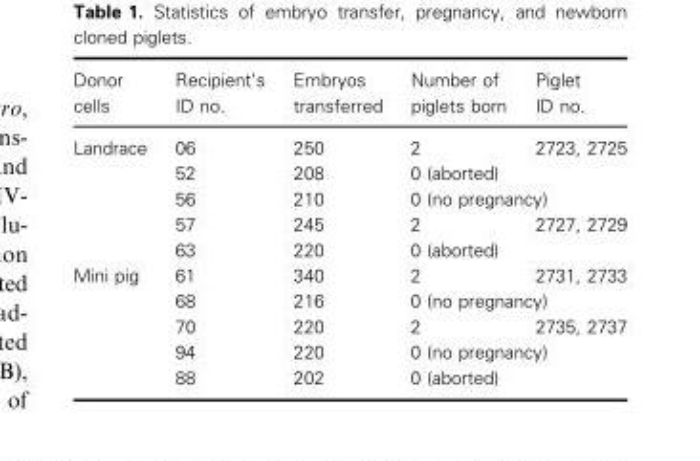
<table><thead><tr><td>Donor cells</td><td>Recipient’s ID no.</td><td>Embryos transferred</td><td>Number of piglets born</td><td>Piglet ID no.</td></tr></thead><tbody><tr><td rowspan="5">Landrace</td><td>06</td><td>250</td><td>2</td><td>2723, 2725</td></tr><tr><td>52</td><td>208</td><td colspan="2">0 (aborted)</td></tr><tr><td>56</td><td>210</td><td colspan="2">0 (no pregnancy)</td></tr><tr><td>57</td><td>245</td><td>2</td><td>2727, 2729</td></tr><tr><td>63</td><td>220</td><td colspan="2">0 (aborted)</td></tr><tr><td rowspan="5">Mini pig</td><td>61</td><td>340</td><td>2</td><td>2731, 2733</td></tr><tr><td>68</td><td>216</td><td colspan="2">0 (no pregnancy)</td></tr><tr><td>70</td><td>220</td><td>2</td><td>2735, 2737</td></tr><tr><td>94</td><td>220</td><td colspan="2">0 (no pregnancy)</td></tr><tr><td>88</td><td>202</td><td colspan="2">0 (aborted)</td></tr></tbody></table>